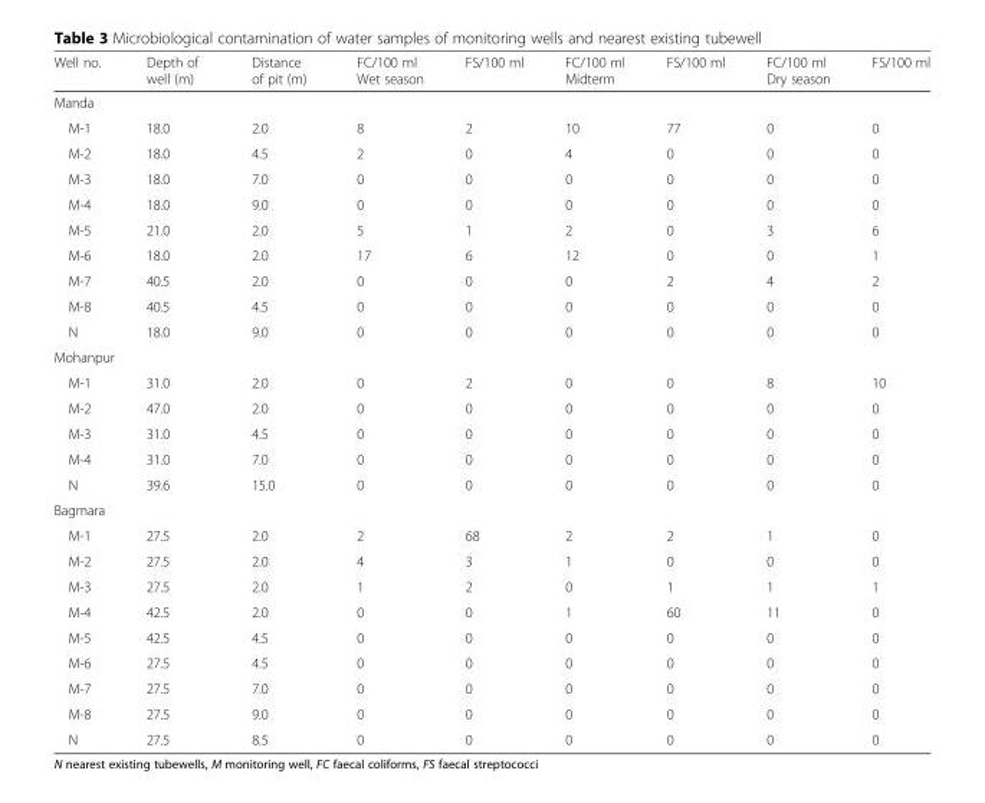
<table><thead><tr><td>Well no.</td><td>Depth of well (m)</td><td>Distance of pit (m)</td><td>FC/100 ml Wet season</td><td>FS/100 ml</td><td>FC/100 ml Midterm</td><td>FS/100 ml</td><td>FC/100 ml Dry season</td><td>FS/100 ml</td></tr></thead><tbody><tr><td colspan="9">Manda</td></tr><tr><td>M-1</td><td>18.0</td><td>2.0</td><td>8</td><td>2</td><td>10</td><td>77</td><td>0</td><td>0</td></tr><tr><td>M-2</td><td>18.0</td><td>4.5</td><td>2</td><td>0</td><td>4</td><td>0</td><td>0</td><td>0</td></tr><tr><td>M-3</td><td>18.0</td><td>7.0</td><td>0</td><td>0</td><td>0</td><td>0</td><td>0</td><td>0</td></tr><tr><td>M-4</td><td>18.0</td><td>9.0</td><td>0</td><td>0</td><td>0</td><td>0</td><td>0</td><td>0</td></tr><tr><td>M-5</td><td>21.0</td><td>2.0</td><td>5</td><td>1</td><td>2</td><td>0</td><td>3</td><td>6</td></tr><tr><td>M-6</td><td>18.0</td><td>2.0</td><td>17</td><td>6</td><td>12</td><td>0</td><td>0</td><td>1</td></tr><tr><td>M-7</td><td>40.5</td><td>2.0</td><td>0</td><td>0</td><td>0</td><td>2</td><td>4</td><td>2</td></tr><tr><td>M-8</td><td>40.5</td><td>4.5</td><td>0</td><td>0</td><td>0</td><td>0</td><td>0</td><td>0</td></tr><tr><td>N</td><td>18.0</td><td>9.0</td><td>0</td><td>0</td><td>0</td><td>0</td><td>0</td><td>0</td></tr><tr><td colspan="9">Mohanpur</td></tr><tr><td>M-1</td><td>31.0</td><td>2.0</td><td>0</td><td>2</td><td>0</td><td>0</td><td>8</td><td>10</td></tr><tr><td>M-2</td><td>47.0</td><td>2.0</td><td>0</td><td>0</td><td>0</td><td>0</td><td>0</td><td>0</td></tr><tr><td>M-3</td><td>31.0</td><td>4.5</td><td>0</td><td>0</td><td>0</td><td>0</td><td>0</td><td>0</td></tr><tr><td>M-4</td><td>31.0</td><td>7.0</td><td>0</td><td>0</td><td>0</td><td>0</td><td>0</td><td>0</td></tr><tr><td>N</td><td>39.6</td><td>15.0</td><td>0</td><td>0</td><td>0</td><td>0</td><td>0</td><td>0</td></tr><tr><td colspan="9">Bagmara</td></tr><tr><td>M-1</td><td>27.5</td><td>2.0</td><td>2</td><td>68</td><td>2</td><td>2</td><td>1</td><td>0</td></tr><tr><td>M-2</td><td>27.5</td><td>2.0</td><td>4</td><td>3</td><td>1</td><td>0</td><td>0</td><td>0</td></tr><tr><td>M-3</td><td>27.5</td><td>2.0</td><td>1</td><td>2</td><td>0</td><td>1</td><td>1</td><td>1</td></tr><tr><td>M-4</td><td>42.5</td><td>2.0</td><td>0</td><td>0</td><td>1</td><td>60</td><td>11</td><td>0</td></tr><tr><td>M-5</td><td>42.5</td><td>4.5</td><td>0</td><td>0</td><td>0</td><td>0</td><td>0</td><td>0</td></tr><tr><td>M-6</td><td>27.5</td><td>4.5</td><td>0</td><td>0</td><td>0</td><td>0</td><td>0</td><td>0</td></tr><tr><td>M-7</td><td>27.5</td><td>7.0</td><td>0</td><td>0</td><td>0</td><td>0</td><td>0</td><td>0</td></tr><tr><td>M-8</td><td>27.5</td><td>9.0</td><td>0</td><td>0</td><td>0</td><td>0</td><td>0</td><td>0</td></tr><tr><td>N</td><td>27.5</td><td>8.5</td><td>0</td><td>0</td><td>0</td><td>0</td><td>0</td><td>0</td></tr></tbody></table>